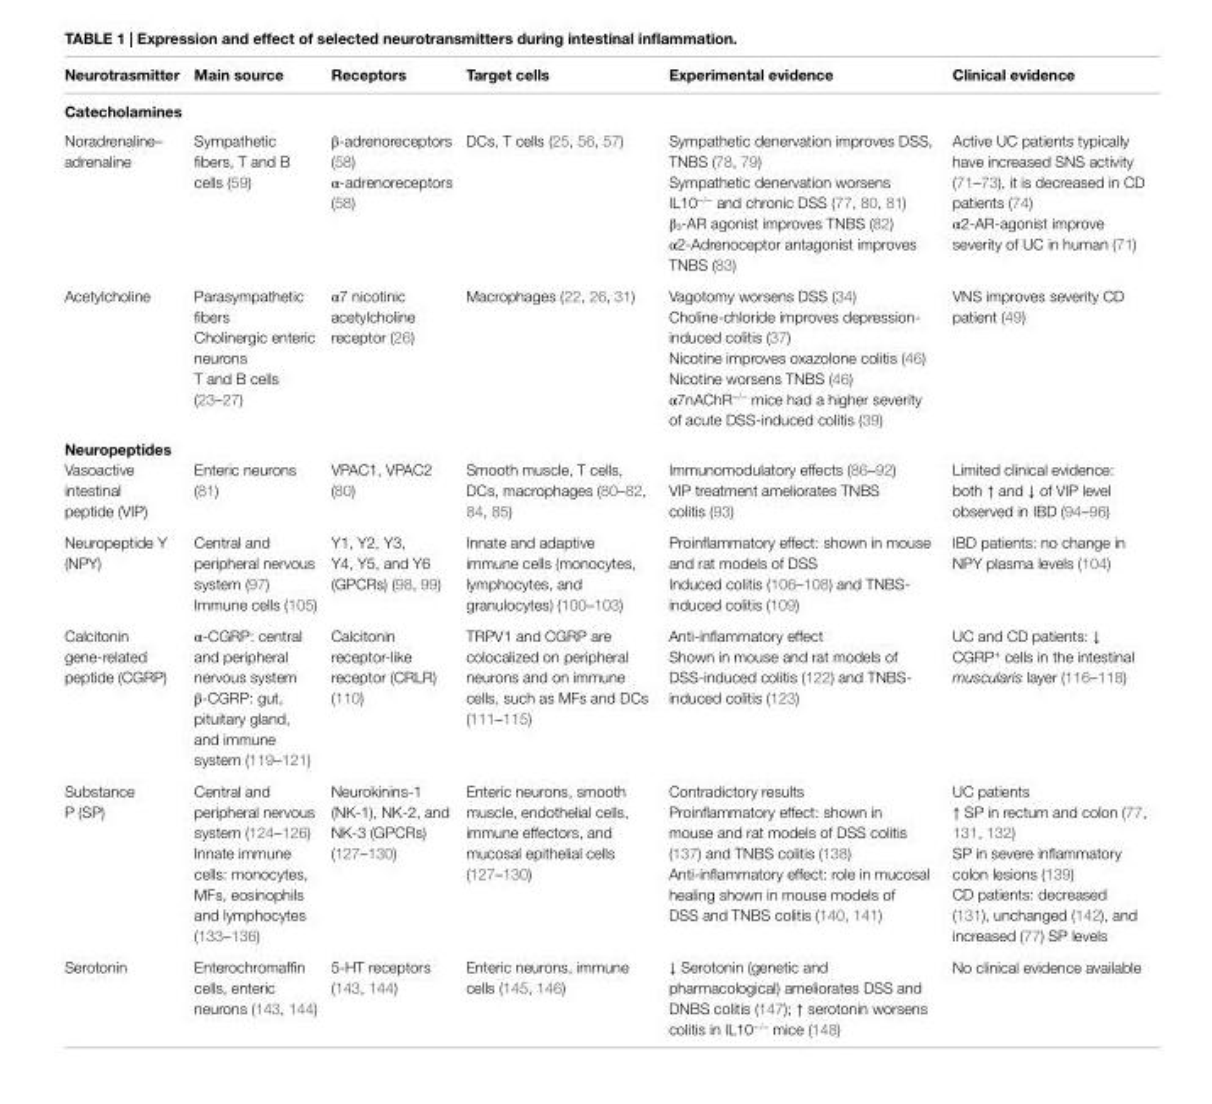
<table><thead><tr><td>Neurotrasmitter</td><td>Main source</td><td>Receptors</td><td>Target cells</td><td>experimental evidence</td><td>Clinical evidence</td></tr></thead><tbody><tr><td colspan="6">Catecholamines</td></tr><tr><td>Noradrenaline– adrenaline</td><td>Sympathetic fibers, T and B cells (59)</td><td>β-adrenoreceptors (58) α-adrenoreceptors (58)</td><td>DCs, T cells (25, 56, 57)</td><td>Sympathetic denervation improves DSS, TNBS (78, 79) Sympathetic denervation worsens IL10<sup>−/−</sup> and chronic DSS (77, 80, 81) β<sub>3</sub>-AR agonist improves TNBS (82) α2-Adrenoceptor antagonist improves TNBS (83)</td><td>Active UC patients typically have increased SNS activity (71–73), it is decreased in CD patients (74) α2-AR-agonist improve severity of UC in human (71)</td></tr><tr><td>Acetylcholine</td><td>Parasympathetic fibers Cholinergic enteric neurons T and B cells (23–27)</td><td>α7 nicotinic acetylcholine receptor (26)</td><td>Macrophages (22, 26, 31)</td><td>Vagotomy worsens DSS (34) Choline-chloride improves depression- induced colitis (37) Nicotine improves oxazolone colitis (46) Nicotine worsens TNBS (46) α7nAChR<sup>−/−</sup> mice had a higher severity of acute DSS-induced colitis (39)</td><td>VNS improves severity CD patient (49)</td></tr><tr><td colspan="6">Neuropeptides</td></tr><tr><td>Vasoactive intestinal peptide (VIP)</td><td>Enteric neurons (81)</td><td>VPAC1, VPAC2 (80)</td><td>Smooth muscle, T cells, DCs, macrophages (80–82, 84, 85)</td><td>Immunomodulatory effects (86–92) VIP treatment ameliorates TNBS colitis (93)</td><td>Limited clinical evidence: both ↑ and ↓ of VIP level observed in IBD (94–96)</td></tr><tr><td>Neuropeptide Y (NPY)</td><td>Central and peripheral nervous system (97) Immune cells (105)</td><td>Y1, Y2, Y3, Y4, Y5, and Y6 (GPCRs) (98, 99)</td><td>Innate and adaptive immune cells (monocytes, lymphocytes, and granulocytes) (100–103)</td><td>Proinflammatory effect: shown in mouse and rat models of DSS Induced colitis (106–108) and TNBS- induced colitis (109)</td><td>IBD patients: no change in NPY plasma levels (104)</td></tr><tr><td>Calcitonin gene-related peptide (CGRP)</td><td>α-CGRP: central and peripheral nervous system β-CGRP: gut, pituitary gland, and immune system (119–121)</td><td>Calcitonin receptor-like receptor (CRLR) (110)</td><td>TRPV1 and CGRP are colocalized on peripheral neurons and on immune cells, such as MFs and DCs (111–115)</td><td>Anti-inflammatory effect Shown in mouse and rat models of DSS-induced colitis (122) and TNBS- induced colitis (123)</td><td>UC and CD patients: ↓ CGRP<sup>+</sup> cells in the intestinal muscularis layer (116–118)</td></tr><tr><td>Substance P (SP)</td><td>Central and peripheral nervous system (124–126) Innate immune cells: monocytes, MFs, eosinophils and lymphocytes (133–136)</td><td>Neurokinins-1 (NK-1), NK-2, and NK-3 (GPCRs) (127–130)</td><td>Enteric neurons, smooth muscle, endothelial cells, immune effectors, and mucosal epithelial cells (127–130)</td><td>Contradictory results Proinflammatory effect: shown in mouse and rat models of DSS colitis (137) and TNBS colitis (138) Anti-inflammatory effect: role in mucosal healing shown in mouse models of DSS and TNBS colitis (140, 141)</td><td>UC patients ↑ SP in rectum and colon (77, 131, 132) SP in severe inflammatory colon lesions (139) CD patients: decreased (131), unchanged (142), and increased (77) SP levels</td></tr><tr><td>Serotonin</td><td>Enterochromaffin cells, enteric neurons (143, 144)</td><td>5-HT receptors (143, 144)</td><td>Enteric neurons, immune cells (145, 146)</td><td>↓ Serotonin (genetic and pharmacological) ameliorates DSS and DNBS colitis (147); ↑ serotonin worsens colitis in IL10<sup>−/−</sup> mice (148)</td><td>No clinical evidence available</td></tr></tbody></table>